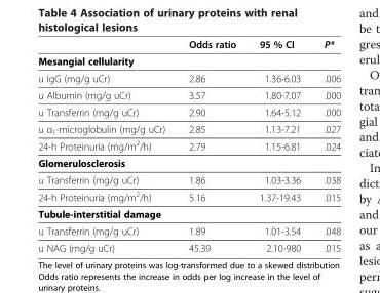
<table><thead><tr><td></td><td>Odds ratio</td><td>95 % CI</td><td>P*</td></tr></thead><tbody><tr><td colspan="4">Mesangial cellularity</td></tr><tr><td>u IgG (mg/g uCr)</td><td>2.86</td><td>1.36-6.03</td><td>.006</td></tr><tr><td>u Albumin (mg/g uCr)</td><td>3.57</td><td>1.80-7.07</td><td>.000</td></tr><tr><td>u Transferrin (mg/g uCr)</td><td>2.90</td><td>1.64-5.12</td><td>.000</td></tr><tr><td>u α<sub>1</sub>-microglobulin (mg/g uCr)</td><td>2.85</td><td>1.13-7.21</td><td>.027</td></tr><tr><td>24-h Proteinuria (mg/m<sup>2</sup>/h)</td><td>2.79</td><td>1.15-6.81</td><td>.024</td></tr><tr><td colspan="4">Glomerulosclerosis</td></tr><tr><td>u Transferrin (mg/g uCr)</td><td>1.86</td><td>1.03-3.36</td><td>.038</td></tr><tr><td>24-h Proteinuria (mg/m<sup>2</sup>/h)</td><td>5.16</td><td>1.37-19.43</td><td>.015</td></tr><tr><td colspan="4">Tubule-interstitial damage</td></tr><tr><td>u Transferrin (mg/g uCr)</td><td>1.89</td><td>1.01-3.54</td><td>.048</td></tr><tr><td>u NAG (mg/g uCr)</td><td>45.39</td><td>2.10-980</td><td>.015</td></tr></tbody></table>